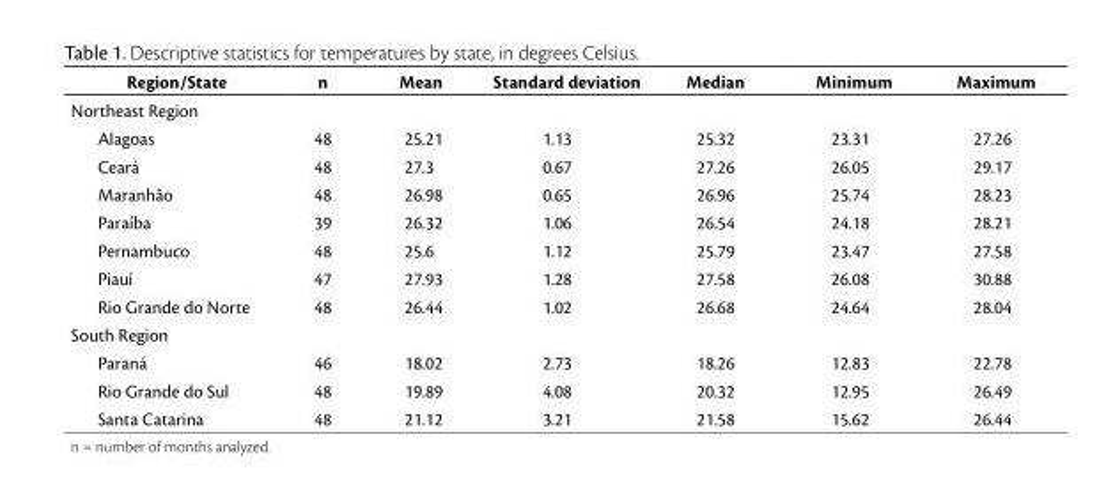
<table><thead><tr><td>Region/State</td><td>n</td><td>Mean</td><td>Standard deviation</td><td>Median</td><td>Minimum</td><td>Maximum</td></tr></thead><tbody><tr><td colspan="7">Northeast Region</td></tr><tr><td>Alagoas</td><td>48</td><td>25.21</td><td>1.13</td><td>25.32</td><td>23.31</td><td>27.26</td></tr><tr><td>Ceará</td><td>48</td><td>27.3</td><td>0.67</td><td>27.26</td><td>26.05</td><td>29.17</td></tr><tr><td>Maranhão</td><td>48</td><td>26.98</td><td>0.65</td><td>26.96</td><td>25.74</td><td>28.23</td></tr><tr><td>Paraíba</td><td>39</td><td>26.32</td><td>1.06</td><td>26.54</td><td>24.18</td><td>28.21</td></tr><tr><td>Pernambuco</td><td>48</td><td>25.6</td><td>1.12</td><td>25.79</td><td>23.47</td><td>27.58</td></tr><tr><td>Piauí</td><td>47</td><td>27.93</td><td>1.28</td><td>27.58</td><td>26.08</td><td>30.88</td></tr><tr><td>Rio Grande do Norte</td><td>48</td><td>26.44</td><td>1.02</td><td>26.68</td><td>24.64</td><td>28.04</td></tr><tr><td colspan="7">South Region</td></tr><tr><td>Paraná</td><td>46</td><td>18.02</td><td>2.73</td><td>18.26</td><td>12.83</td><td>22.78</td></tr><tr><td>Rio Grande do Sul</td><td>48</td><td>19.89</td><td>4.08</td><td>20.32</td><td>12.95</td><td>26.49</td></tr><tr><td>Santa Catarina</td><td>48</td><td>21.12</td><td>3.21</td><td>21.58</td><td>15.62</td><td>26.44</td></tr></tbody></table>